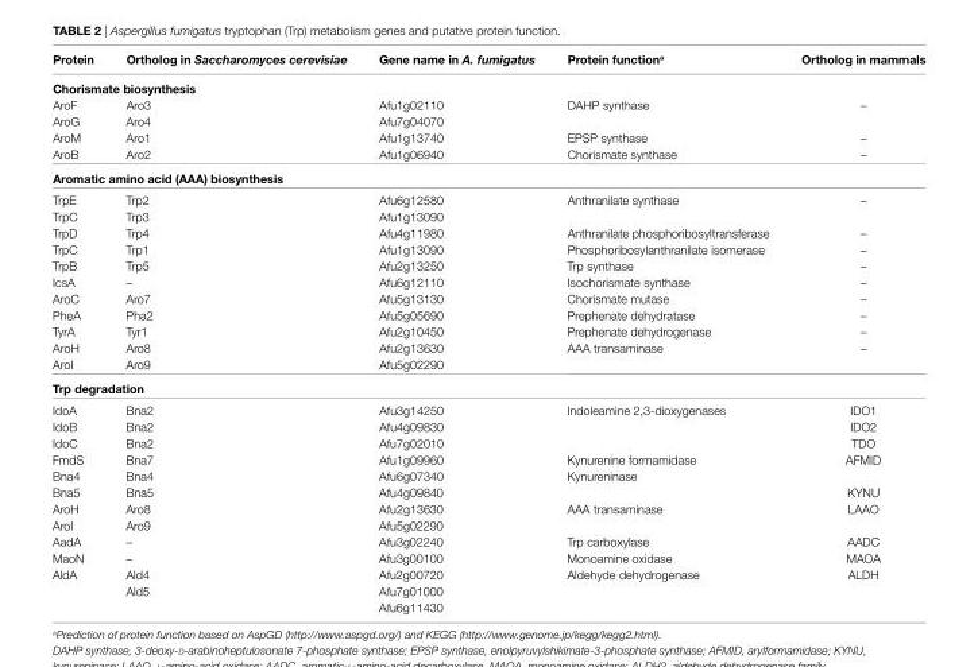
<table><thead><tr><td>Protein</td><td>Ortholog in Saccharomyces cerevisiae</td><td>Gene name in A. fumigatus</td><td>Protein function<sup>a</sup></td><td>Ortholog in mammals</td></tr></thead><tbody><tr><td colspan="5">Chorismate biosynthesis</td></tr><tr><td>AroF</td><td>Aro3</td><td>Afu1g02110</td><td rowspan="2">DAHP synthase</td><td rowspan="2">–</td></tr><tr><td>AroG</td><td>Aro4</td><td>Afu7g04070</td></tr><tr><td>AroM</td><td>Aro1</td><td>Afu1g13740</td><td>EPSP synthase</td><td>–</td></tr><tr><td>AroB</td><td>Aro2</td><td>Afu1g06940</td><td>Chorismate synthase</td><td>–</td></tr><tr><td colspan="5">Aromatic amino acid (AAA) biosynthesis</td></tr><tr><td>TrpE</td><td>Trp2</td><td>Afu6g12580</td><td rowspan="2">Anthranilate synthase</td><td rowspan="2">–</td></tr><tr><td>TrpC</td><td>Trp3</td><td>Afu1g13090</td></tr><tr><td>TrpD</td><td>Trp4</td><td>Afu4g11980</td><td>Anthranilate phosphoribosyltransferase</td><td>–</td></tr><tr><td>TrpC</td><td>Trp1</td><td>Afu1g13090</td><td>Phosphoribosylanthranilate isomerase</td><td>–</td></tr><tr><td>TrpB</td><td>Trp5</td><td>Afu2g13250</td><td>Trp synthase</td><td>–</td></tr><tr><td>IcsA</td><td>–</td><td>Afu6g12110</td><td>Isochorismate synthase</td><td>–</td></tr><tr><td>AroC</td><td>Aro7</td><td>Afu5g13130</td><td>Chorismate mutase</td><td>–</td></tr><tr><td>PheA</td><td>Pha2</td><td>Afu5g05690</td><td>Prephenate dehydratase</td><td>–</td></tr><tr><td>TyrA</td><td>Tyr1</td><td>Afu2g10450</td><td>Prephenate dehydrogenase</td><td>–</td></tr><tr><td>AroH</td><td>Aro8</td><td>Afu2g13630</td><td rowspan="2">AAA transaminase</td><td rowspan="2">–</td></tr><tr><td>AroI</td><td>Aro9</td><td>Afu5g02290</td></tr><tr><td colspan="5">Trp degradation</td></tr><tr><td>IdoA</td><td>Bna2</td><td>Afu3g14250</td><td rowspan="3">Indoleamine 2,3-dioxygenases</td><td>IDO1</td></tr><tr><td>IdoB</td><td>Bna2</td><td>Afu4g09830</td><td>IDO2</td></tr><tr><td>IdoC</td><td>Bna2</td><td>Afu7g02010</td><td>TDO</td></tr><tr><td>FmdS</td><td>Bna7</td><td>Afu1g09960</td><td>Kynurenine formamidase</td><td>AFMID</td></tr><tr><td>Bna4</td><td>Bna4</td><td>Afu6g07340</td><td rowspan="2">Kynureninase</td><td></td></tr><tr><td>Bna5</td><td>Bna5</td><td>Afu4g09840</td><td>KYNU</td></tr><tr><td>AroH</td><td>Aro8</td><td>Afu2g13630</td><td rowspan="2">AAA transaminase</td><td rowspan="2">LAAO</td></tr><tr><td>AroI</td><td>Aro9</td><td>Afu5g02290</td></tr><tr><td>AadA</td><td>–</td><td>Afu3g02240</td><td>Trp carboxylase</td><td>AADC</td></tr><tr><td>MaoN</td><td>–</td><td>Afu3g00100</td><td>Monoamine oxidase</td><td>MAOA</td></tr><tr><td rowspan="3">AldA</td><td>Ald4</td><td>Afu2g00720</td><td rowspan="3">Aldehyde dehydrogenase</td><td rowspan="3">ALDH</td></tr><tr><td>Ald5</td><td>Afu7g01000</td></tr><tr><td></td><td>Afu6g11430</td></tr></tbody></table>